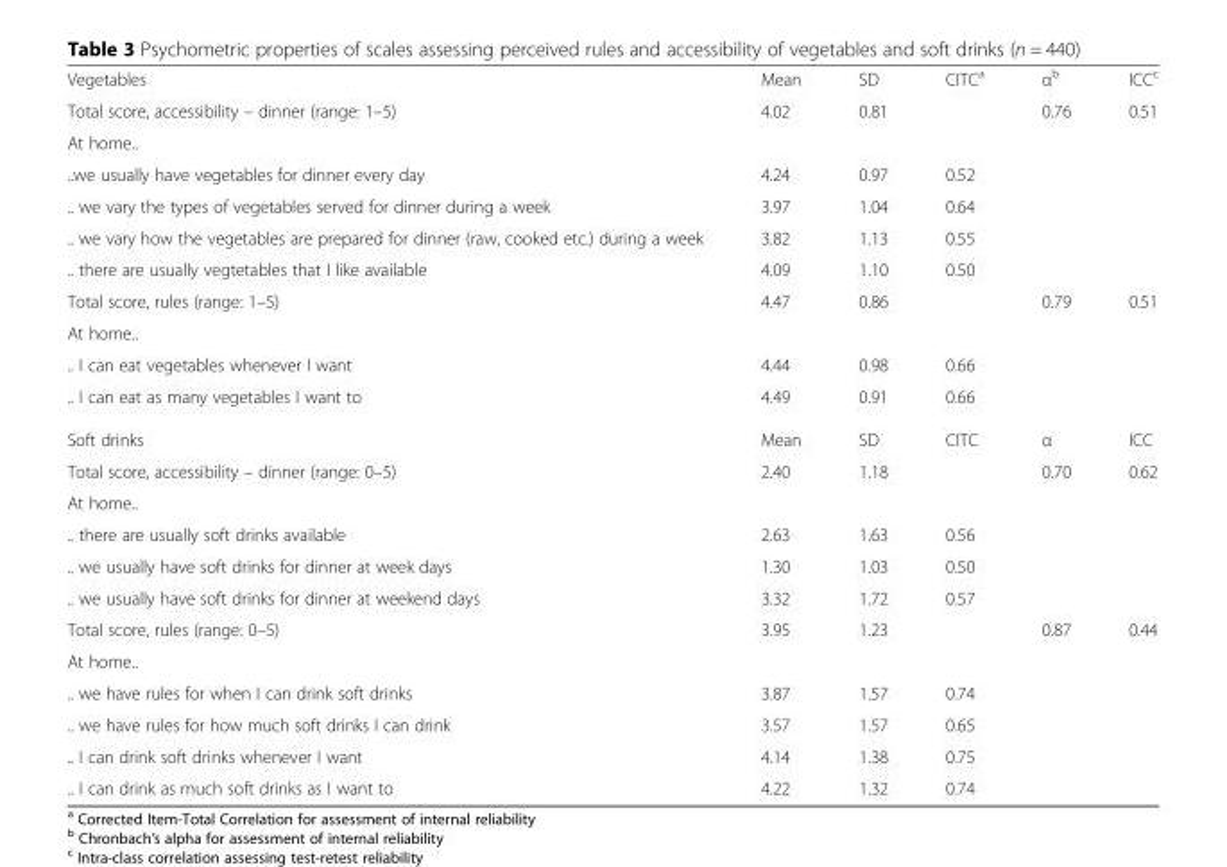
<table><tbody><tr><td>Vegetables</td><td>Mean</td><td>SD</td><td>CITC<sup>a</sup></td><td>α<sup>b</sup></td><td>ICC<sup>c</sup></td></tr><tr><td>Total score, accessibility – dinner (range: 1–5)</td><td>4.02</td><td>0.81</td><td></td><td>0.76</td><td>0.51</td></tr><tr><td colspan="6">At home..</td></tr><tr><td>..we usually have vegetables for dinner every day</td><td>4.24</td><td>0.97</td><td>0.52</td><td></td><td></td></tr><tr><td>.. we vary the types of vegetables served for dinner during a week</td><td>3.97</td><td>1.04</td><td>0.64</td><td></td><td></td></tr><tr><td>.. we vary how the vegetables are prepared for dinner (raw, cooked etc.) during a week</td><td>3.82</td><td>1.13</td><td>0.55</td><td></td><td></td></tr><tr><td>.. there are usually vegtetables that I like available</td><td>4.09</td><td>1.10</td><td>0.50</td><td></td><td></td></tr><tr><td>Total score, rules (range: 1–5)</td><td>4.47</td><td>0.86</td><td></td><td>0.79</td><td>0.51</td></tr><tr><td colspan="6">At home..</td></tr><tr><td>.. I can eat vegetables whenever I want</td><td>4.44</td><td>0.98</td><td>0.66</td><td></td><td></td></tr><tr><td>.. I can eat as many vegetables I want to</td><td>4.49</td><td>0.91</td><td>0.66</td><td></td><td></td></tr><tr><td>Soft drinks</td><td>Mean</td><td>SD</td><td>CITC</td><td>α</td><td>ICC</td></tr><tr><td>Total score, accessibility – dinner (range: 0–5)</td><td>2.40</td><td>1.18</td><td></td><td>0.70</td><td>0.62</td></tr><tr><td colspan="6">At home..</td></tr><tr><td>.. there are usually soft drinks available</td><td>2.63</td><td>1.63</td><td>0.56</td><td></td><td></td></tr><tr><td>.. we usually have soft drinks for dinner at week days</td><td>1.30</td><td>1.03</td><td>0.50</td><td></td><td></td></tr><tr><td>.. we usually have soft drinks for dinner at weekend days</td><td>3.32</td><td>1.72</td><td>0.57</td><td></td><td></td></tr><tr><td>Total score, rules (range: 0–5)</td><td>3.95</td><td>1.23</td><td></td><td>0.87</td><td>0.44</td></tr><tr><td colspan="6">At home..</td></tr><tr><td>.. we have rules for when I can drink soft drinks</td><td>3.87</td><td>1.57</td><td>0.74</td><td></td><td></td></tr><tr><td>.. we have rules for how much soft drinks I can drink</td><td>3.57</td><td>1.57</td><td>0.65</td><td></td><td></td></tr><tr><td>.. I can drink soft drinks whenever I want</td><td>4.14</td><td>1.38</td><td>0.75</td><td></td><td></td></tr><tr><td>.. I can drink as much soft drinks as I want to</td><td>4.22</td><td>1.32</td><td>0.74</td><td></td><td></td></tr></tbody></table>